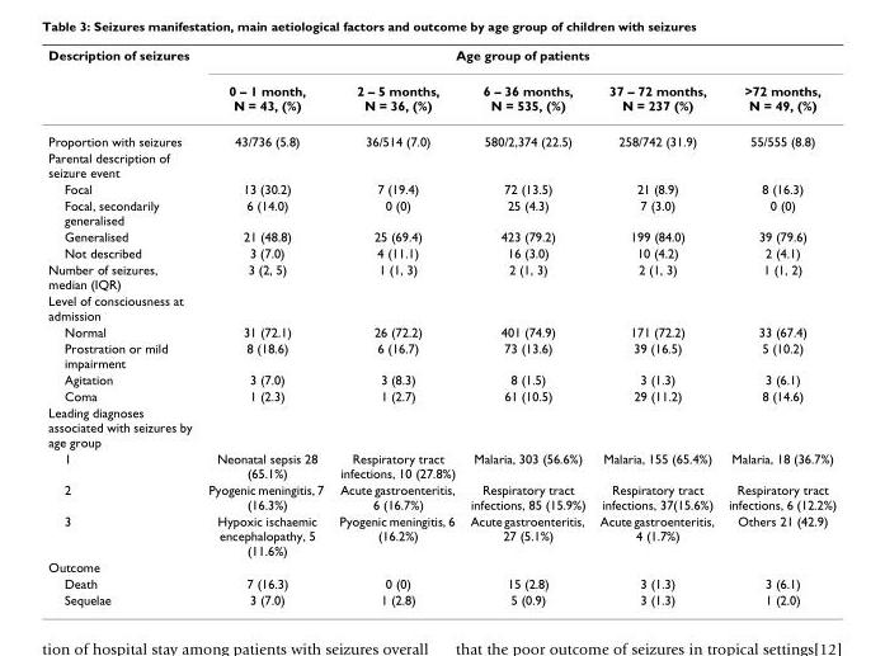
<table><thead><tr><td rowspan="2">Description of seizures</td><td colspan="5">Age group of patients</td></tr><tr><td>0 – 1 month, N = 43, (%)</td><td>2 – 5 months, N = 36, (%)</td><td>6 – 36 months, N = 535, (%)</td><td>37 – 72 months, N = 237 (%)</td><td>&gt;72 months, N = 49, (%)</td></tr></thead><tbody><tr><td>Proportion with seizures</td><td>43/736 (5.8)</td><td>36/514 (7.0)</td><td>580/2,374 (22.5)</td><td>258/742 (31.9)</td><td>55/555 (8.8)</td></tr><tr><td colspan="6">Parental description of seizure event</td></tr><tr><td>Focal</td><td>13 (30.2)</td><td>7 (19.4)</td><td>72 (13.5)</td><td>21 (8.9)</td><td>8 (16.3)</td></tr><tr><td>Focal, secondarily generalised</td><td>6 (14.0)</td><td>0 (0)</td><td>25 (4.3)</td><td>7 (3.0)</td><td>0 (0)</td></tr><tr><td>Generalised</td><td>21 (48.8)</td><td>25 (69.4)</td><td>423 (79.2)</td><td>199 (84.0)</td><td>39 (79.6)</td></tr><tr><td>Not described</td><td>3 (7.0)</td><td>4 (11.1)</td><td>16 (3.0)</td><td>10 (4.2)</td><td>2 (4.1)</td></tr><tr><td>Number of seizures, median (IQR)</td><td>3 (2, 5)</td><td>1 (1, 3)</td><td>2 (1, 3)</td><td>2 (1, 3)</td><td>1 (1, 2)</td></tr><tr><td colspan="6">Level of consciousness at admission</td></tr><tr><td>Normal</td><td>31 (72.1)</td><td>26 (72.2)</td><td>401 (74.9)</td><td>171 (72.2)</td><td>33 (67.4)</td></tr><tr><td>Prostration or mild impairment</td><td>8 (18.6)</td><td>6 (16.7)</td><td>73 (13.6)</td><td>39 (16.5)</td><td>5 (10.2)</td></tr><tr><td>Agitation</td><td>3 (7.0)</td><td>3 (8.3)</td><td>8 (1.5)</td><td>3 (1.3)</td><td>3 (6.1)</td></tr><tr><td>Coma</td><td>1 (2.3)</td><td>1 (2.7)</td><td>61 (10.5)</td><td>29 (11.2)</td><td>8 (14.6)</td></tr><tr><td colspan="6">Leading diagnoses associated with seizures by age group</td></tr><tr><td>1</td><td>Neonatal sepsis 28 (65.1%)</td><td>Respiratory tract infections, 10 (27.8%)</td><td>Malaria, 303 (56.6%)</td><td>Malaria, 155 (65.4%)</td><td>Malaria, 18 (36.7%)</td></tr><tr><td>2</td><td>Pyogenic meningitis, 7 (16.3%)</td><td>Acute gastroenteritis, 6 (16.7%)</td><td>Respiratory tract infections, 85 (15.9%)</td><td>Respiratory tract infections, 37(15.6%)</td><td>Respiratory tract infections, 6 (12.2%)</td></tr><tr><td>3</td><td>Hypoxic ischaemic encephalopathy, 5 (11.6%)</td><td>Pyogenic meningitis, 6 (16.2%)</td><td>Acute gastroenteritis, 27 (5.1%)</td><td>Acute gastroenteritis, 4 (1.7%)</td><td>Others 21 (42.9)</td></tr><tr><td colspan="6">Outcome</td></tr><tr><td>Death</td><td>7 (16.3)</td><td>0 (0)</td><td>15 (2.8)</td><td>3 (1.3)</td><td>3 (6.1)</td></tr><tr><td>Sequelae</td><td>3 (7.0)</td><td>1 (2.8)</td><td>5 (0.9)</td><td>3 (1.3)</td><td>1 (2.0)</td></tr></tbody></table>